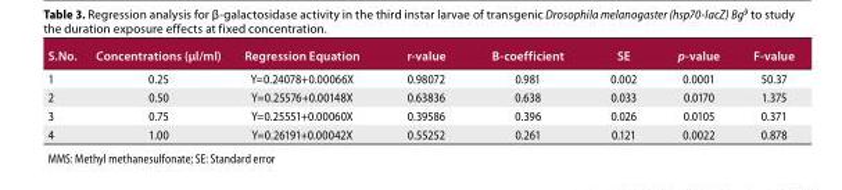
<table><thead><tr><td>S.No.</td><td>Concentrations (μl/ml)</td><td>Regression Equation</td><td>r-value</td><td>Β-coefficient</td><td>SE</td><td>p-value</td><td>F-value</td></tr></thead><tbody><tr><td>1</td><td>0.25</td><td>Y=0.24078+0.00066X</td><td>0.98072</td><td>0.981</td><td>0.002</td><td>0.0001</td><td>50.37</td></tr><tr><td>2</td><td>0.50</td><td>Y=0.25576+0.00148X</td><td>0.63836</td><td>0.638</td><td>0.033</td><td>0.0170</td><td>1.375</td></tr><tr><td>3</td><td>0.75</td><td>Y=0.25551+0.00060X</td><td>0.39586</td><td>0.396</td><td>0.026</td><td>0.0105</td><td>0.371</td></tr><tr><td>4</td><td>1.00</td><td>Y=0.26191+0.00042X</td><td>0.55252</td><td>0.261</td><td>0.121</td><td>0.0022</td><td>0.878</td></tr></tbody></table>